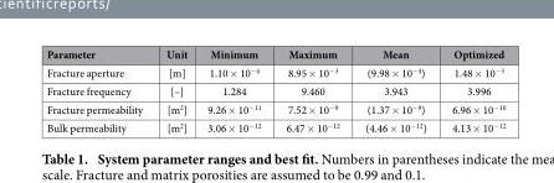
<table><thead><tr><td>Parameter</td><td>Unit</td><td>Minimum</td><td>Maximum</td><td>Mean</td><td>Optimized</td></tr></thead><tbody><tr><td>Fracture aperture</td><td>[m]</td><td>1.10 × 10<sup>−4</sup></td><td>8.95 × 10<sup>−3</sup></td><td>(9.98 × 10<sup>−4</sup>)</td><td>1.48 × 10<sup>−3</sup></td></tr><tr><td>Fracture frequency</td><td>[–]</td><td>1.284</td><td>9.460</td><td>3.943</td><td>3.996</td></tr><tr><td>Fracture permeability</td><td>[m<sup>2</sup>]</td><td>9.26 × 10<sup>−11</sup></td><td>7.52 × 10<sup>−9</sup></td><td>(1.37 × 10<sup>−9</sup>)</td><td>6.96 × 10<sup>−10</sup></td></tr><tr><td>Bulk permeability</td><td>[m<sup>2</sup>]</td><td>3.06 × 10<sup>−12</sup></td><td>6.47 × 10<sup>−12</sup></td><td>(4.46 × 10<sup>−12</sup>)</td><td>4.13 × 10<sup>−12</sup></td></tr></tbody></table>